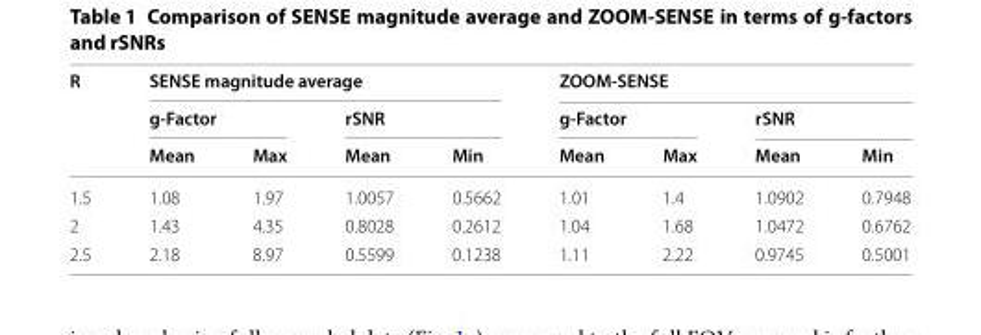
<table><thead><tr><td rowspan="3">R</td><td colspan="4">SENSE magnitude average</td><td colspan="4">ZOOM-SENSE</td></tr><tr><td colspan="2">g-Factor</td><td colspan="2">rSNR</td><td colspan="2">g-Factor</td><td colspan="2">rSNR</td></tr><tr><td>Mean</td><td>Max</td><td>Mean</td><td>Min</td><td>Mean</td><td>Max</td><td>Mean</td><td>Min</td></tr></thead><tbody><tr><td>1.5</td><td>1.08</td><td>1.97</td><td>1.0057</td><td>0.5662</td><td>1.01</td><td>1.4</td><td>1.0902</td><td>0.7948</td></tr><tr><td>2</td><td>1.43</td><td>4.35</td><td>0.8028</td><td>0.2612</td><td>1.04</td><td>1.68</td><td>1.0472</td><td>0.6762</td></tr><tr><td>2.5</td><td>2.18</td><td>8.97</td><td>0.5599</td><td>0.1238</td><td>1.11</td><td>2.22</td><td>0.9745</td><td>0.5001</td></tr></tbody></table>